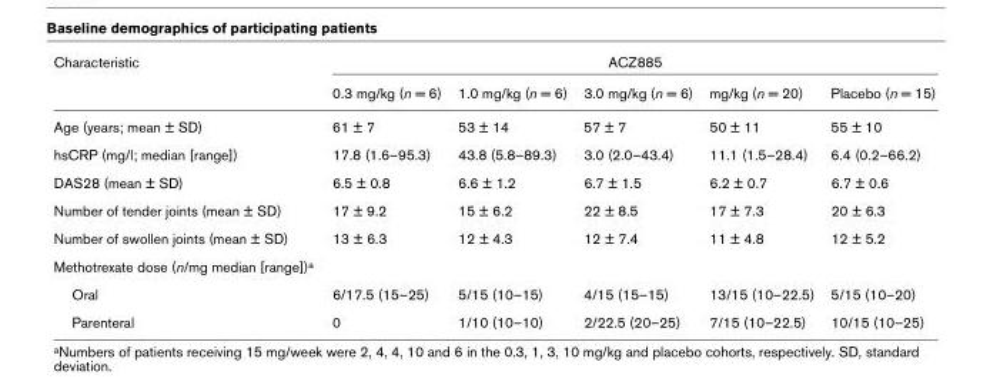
<table><thead><tr><td rowspan="2">Characteristic</td><td colspan="5">ACZ885</td></tr><tr><td>0.3 mg/kg (n = 6)</td><td>1.0 mg/kg (n = 6)</td><td>3.0 mg/kg (n = 6)</td><td>mg/kg (n = 20)</td><td>Placebo (n = 15)</td></tr></thead><tbody><tr><td>Age (years; mean ± SD)</td><td>61 ± 7</td><td>53 ± 14</td><td>57 ± 7</td><td>50 ± 11</td><td>55 ± 10</td></tr><tr><td>hsCRP (mg/l; median [range])</td><td>17.8 (1.6–95.3)</td><td>43.8 (5.8–89.3)</td><td>3.0 (2.0–43.4)</td><td>11.1 (1.5–28.4)</td><td>6.4 (0.2–66.2)</td></tr><tr><td>DAS28 (mean ± SD)</td><td>6.5 ± 0.8</td><td>6.6 ± 1.2</td><td>6.7 ± 1.5</td><td>6.2 ± 0.7</td><td>6.7 ± 0.6</td></tr><tr><td>Number of tender joints (mean ± SD)</td><td>17 ± 9.2</td><td>15 ± 6.2</td><td>22 ± 8.5</td><td>17 ± 7.3</td><td>20 ± 6.3</td></tr><tr><td>Number of swollen joints (mean ± SD)</td><td>13 ± 6.3</td><td>12 ± 4.3</td><td>12 ± 7.4</td><td>11 ± 4.8</td><td>12 ± 5.2</td></tr><tr><td colspan="6">Methotrexate dose (n/mg median [range])<sup>a</sup></td></tr><tr><td>Oral</td><td>6/17.5 (15–25)</td><td>5/15 (10–15)</td><td>4/15 (15–15)</td><td>13/15 (10–22.5)</td><td>5/15 (10–20)</td></tr><tr><td>Parenteral</td><td>0</td><td>1/10 (10–10)</td><td>2/22.5 (20–25)</td><td>7/15 (10–22.5)</td><td>10/15 (10–25)</td></tr></tbody></table>